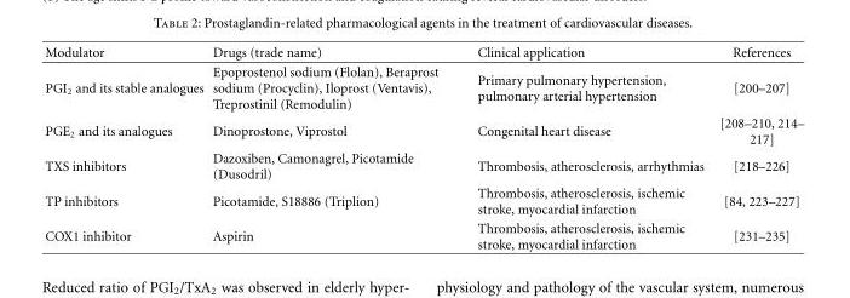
<table><thead><tr><td>Modulator</td><td>Drugs (trade name)</td><td>Clinical application</td><td>References</td></tr></thead><tbody><tr><td>PGI<sub>2</sub> and its stable analogues</td><td>Epoprostenol sodium (Flolan), Beraprost sodium (Procyclin), Iloprost (Ventavis), Treprostinil (Remodulin)</td><td>Primary pulmonary hypertension, pulmonary arterial hypertension</td><td>[200–207]</td></tr><tr><td>PGE<sub>2</sub> and its analogues</td><td>Dinoprostone, Viprostol</td><td>Congenital heart disease</td><td>[208–210, 214– 217]</td></tr><tr><td>TXS inhibitors</td><td>Dazoxiben, Camonagrel, Picotamide (Dusodril)</td><td>Thrombosis, atherosclerosis, arrhythmias</td><td>[218–226]</td></tr><tr><td>TP inhibitors</td><td>Picotamide, S18886 (Triplion)</td><td>Thrombosis, atherosclerosis, ischemic stroke, myocardial infarction</td><td>[84, 223–227]</td></tr><tr><td>COX1 inhibitor</td><td>Aspirin</td><td>Thrombosis, atherosclerosis, ischemic stroke, myocardial infarction</td><td>[231–235]</td></tr></tbody></table>